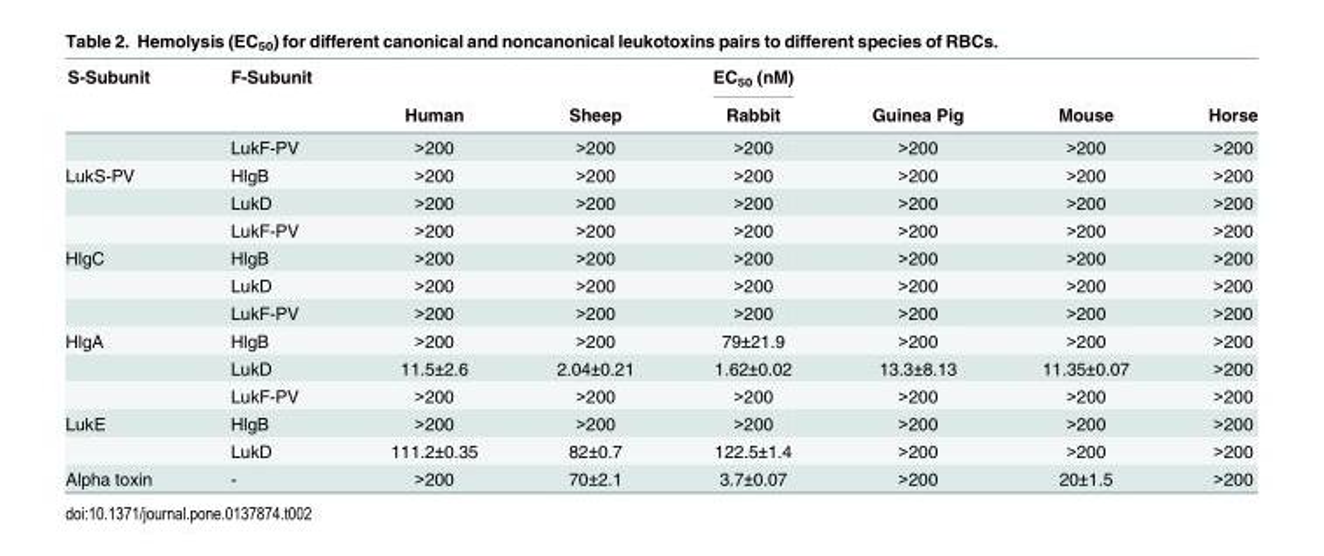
<table><thead><tr><td rowspan="2">S-Subunit</td><td rowspan="2">F-Subunit</td><td rowspan="2">Human</td><td rowspan="2">Sheep</td><td rowspan="2">EC<sub>50</sub> (nM) Rabbit</td><td rowspan="2">Guinea Pig</td><td rowspan="2">Mouse</td><td rowspan="2">Horse</td></tr><tr></tr></thead><tbody><tr><td></td><td>LukF-PV</td><td>&gt;200</td><td>&gt;200</td><td>&gt;200</td><td>&gt;200</td><td>&gt;200</td><td>&gt;200</td></tr><tr><td rowspan="3">LukS-PV</td><td>HlgB</td><td>&gt;200</td><td>&gt;200</td><td>&gt;200</td><td>&gt;200</td><td>&gt;200</td><td>&gt;200</td></tr><tr><td>LukD</td><td>&gt;200</td><td>&gt;200</td><td>&gt;200</td><td>&gt;200</td><td>&gt;200</td><td>&gt;200</td></tr><tr><td>LukF-PV</td><td>&gt;200</td><td>&gt;200</td><td>&gt;200</td><td>&gt;200</td><td>&gt;200</td><td>&gt;200</td></tr><tr><td rowspan="3">HlgC</td><td>HlgB</td><td>&gt;200</td><td>&gt;200</td><td>&gt;200</td><td>&gt;200</td><td>&gt;200</td><td>&gt;200</td></tr><tr><td>LukD</td><td>&gt;200</td><td>&gt;200</td><td>&gt;200</td><td>&gt;200</td><td>&gt;200</td><td>&gt;200</td></tr><tr><td>LukF-PV</td><td>&gt;200</td><td>&gt;200</td><td>&gt;200</td><td>&gt;200</td><td>&gt;200</td><td>&gt;200</td></tr><tr><td rowspan="3">HlgA</td><td>HlgB</td><td>&gt;200</td><td>&gt;200</td><td>79±21.9</td><td>&gt;200</td><td>&gt;200</td><td>&gt;200</td></tr><tr><td>LukD</td><td>11.5±2.6</td><td>2.04±0.21</td><td>1.62±0.02</td><td>13.3±8.13</td><td>11.35±0.07</td><td>&gt;200</td></tr><tr><td>LukF-PV</td><td>&gt;200</td><td>&gt;200</td><td>&gt;200</td><td>&gt;200</td><td>&gt;200</td><td>&gt;200</td></tr><tr><td rowspan="2">LukE</td><td>HlgB</td><td>&gt;200</td><td>&gt;200</td><td>&gt;200</td><td>&gt;200</td><td>&gt;200</td><td>&gt;200</td></tr><tr><td>LukD</td><td>111.2±0.35</td><td>82±0.7</td><td>122.5±1.4</td><td>&gt;200</td><td>&gt;200</td><td>&gt;200</td></tr><tr><td>Alpha toxin</td><td>-</td><td>&gt;200</td><td>70±2.1</td><td>3.7±0.07</td><td>&gt;200</td><td>20±1.5</td><td>&gt;200</td></tr></tbody></table>